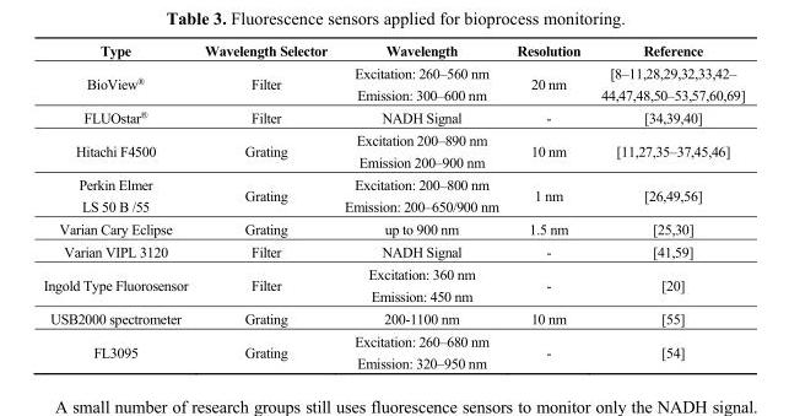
<table><thead><tr><td>Type</td><td>Wavelength Selector</td><td>Wavelength</td><td>Resolution</td><td>Reference</td></tr></thead><tbody><tr><td>BioView<sup>®</sup></td><td>Filter</td><td>Excitation: 260–560 nm Emission: 300–600 nm</td><td>20 nm</td><td>[8–11,28,29,32,33,42– 44,47,48,50–53,57,60,69]</td></tr><tr><td>FLUOstar<sup>®</sup></td><td>Filter</td><td>NADH Signal</td><td>-</td><td>[34,39,40]</td></tr><tr><td>Hitachi F4500</td><td>Grating</td><td>Excitation 200–890 nm Emission 200–900 nm</td><td>10 nm</td><td>[11,27,35–37,45,46]</td></tr><tr><td>Perkin Elmer LS 50 B /55</td><td>Grating</td><td>Excitation: 200–800 nm Emission: 200–650/900 nm</td><td>1 nm</td><td>[26,49,56]</td></tr><tr><td>Varian Cary Eclipse</td><td>Grating</td><td>up to 900 nm</td><td>1.5 nm</td><td>[25,30]</td></tr><tr><td>Varian VIPL 3120</td><td>Filter</td><td>NADH Signal</td><td>-</td><td>[41,59]</td></tr><tr><td>Ingold Type Fluorosensor</td><td>Filter</td><td>Excitation: 360 nm Emission: 450 nm</td><td>-</td><td>[20]</td></tr><tr><td>USB2000 spectrometer</td><td>Grating</td><td>200-1100 nm</td><td>10 nm</td><td>[55]</td></tr><tr><td>FL3095</td><td>Grating</td><td>Excitation: 260–680 nm Emission: 320–950 nm</td><td>-</td><td>[54]</td></tr></tbody></table>